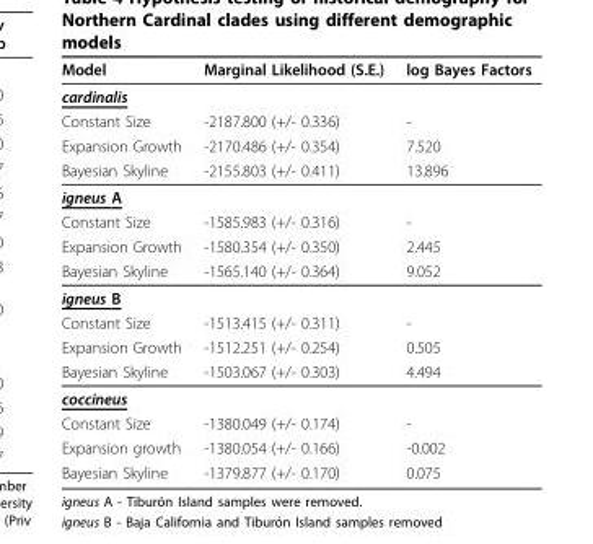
<table><thead><tr><td>Model</td><td>Marginal Likelihood (S.E.)</td><td>log Bayes Factors</td></tr></thead><tbody><tr><td colspan="3">cardinalis</td></tr><tr><td>Constant Size</td><td>-2187.800 (+/- 0.336)</td><td>-</td></tr><tr><td>Expansion Growth</td><td>-2170.486 (+/- 0.354)</td><td>7.520</td></tr><tr><td>Bayesian Skyline</td><td>-2155.803 (+/- 0.411)</td><td>13.896</td></tr><tr><td colspan="3">igneus A</td></tr><tr><td>Constant Size</td><td>-1585.983 (+/- 0.316)</td><td>-</td></tr><tr><td>Expansion Growth</td><td>-1580.354 (+/- 0.350)</td><td>2.445</td></tr><tr><td>Bayesian Skyline</td><td>-1565.140 (+/- 0.364)</td><td>9.052</td></tr><tr><td colspan="3">igneus B</td></tr><tr><td>Constant Size</td><td>-1513.415 (+/- 0.311)</td><td>-</td></tr><tr><td>Expansion Growth</td><td>-1512.251 (+/- 0.254)</td><td>0.505</td></tr><tr><td>Bayesian Skyline</td><td>-1503.067 (+/- 0.303)</td><td>4.494</td></tr><tr><td colspan="3">coccineus</td></tr><tr><td>Constant Size</td><td>-1380.049 (+/- 0.174)</td><td>-</td></tr><tr><td>Expansion growth</td><td>-1380.054 (+/- 0.166)</td><td>-0.002</td></tr><tr><td>Bayesian Skyline</td><td>-1379.877 (+/- 0.170)</td><td>0.075</td></tr></tbody></table>